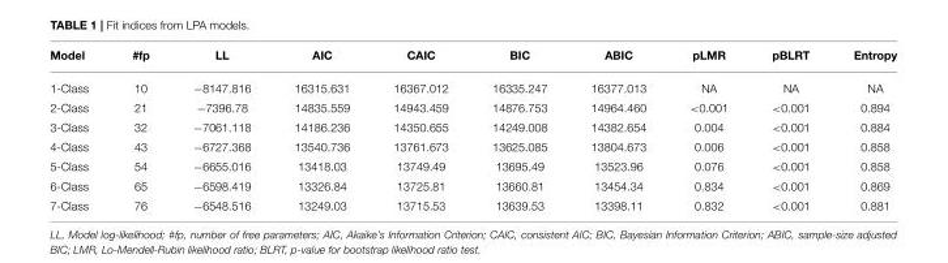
<table><thead><tr><td>Model</td><td>#fp</td><td>LL</td><td>AIC</td><td>CAIC</td><td>BIC</td><td>ABIC</td><td>pLMR</td><td>pBLRT</td><td>Entropy</td></tr></thead><tbody><tr><td>1-Class</td><td>10</td><td>−8147.816</td><td>16315.631</td><td>16367.012</td><td>16335.247</td><td>16377.013</td><td>NA</td><td>NA</td><td>NA</td></tr><tr><td>2-Class</td><td>21</td><td>−7396.78</td><td>14835.559</td><td>14943.459</td><td>14876.753</td><td>14964.460</td><td>&lt;0.001</td><td>&lt;0.001</td><td>0.894</td></tr><tr><td>3-Class</td><td>32</td><td>−7061.118</td><td>14186.236</td><td>14350.655</td><td>14249.008</td><td>14382.654</td><td>0.004</td><td>&lt;0.001</td><td>0.884</td></tr><tr><td>4-Class</td><td>43</td><td>−6727.368</td><td>13540.736</td><td>13761.673</td><td>13625.085</td><td>13804.673</td><td>0.006</td><td>&lt;0.001</td><td>0.858</td></tr><tr><td>5-Class</td><td>54</td><td>−6655.016</td><td>13418.03</td><td>13749.49</td><td>13695.49</td><td>13523.96</td><td>0.076</td><td>&lt;0.001</td><td>0.858</td></tr><tr><td>6-Class</td><td>65</td><td>−6598.419</td><td>13326.84</td><td>13725.81</td><td>13660.81</td><td>13454.34</td><td>0.834</td><td>&lt;0.001</td><td>0.869</td></tr><tr><td>7-Class</td><td>76</td><td>−6548.516</td><td>13249.03</td><td>13715.53</td><td>13639.53</td><td>13398.11</td><td>0.832</td><td>&lt;0.001</td><td>0.881</td></tr></tbody></table>